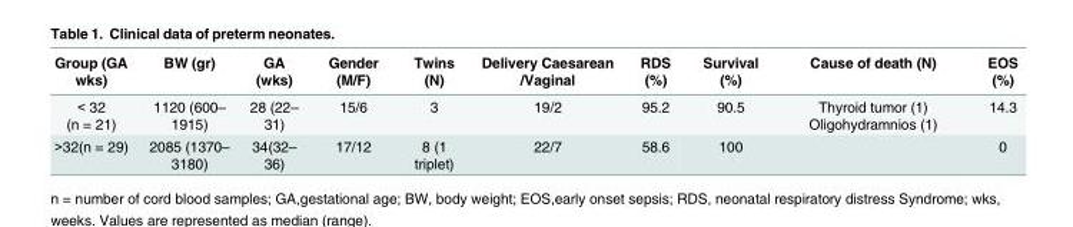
<table><thead><tr><td>Group (GA wks)</td><td>BW (gr)</td><td>GA (wks)</td><td>Gender (M/F)</td><td>Twins (N)</td><td>Delivery Caesarean /Vaginal</td><td>RDS (%)</td><td>Survival (%)</td><td>Cause of death (N)</td><td>EOS (%)</td></tr></thead><tbody><tr><td>&lt; 32 (n = 21)</td><td>1120 (600– 1915)</td><td>28 (22– 31)</td><td>15/6</td><td>3</td><td>19/2</td><td>95.2</td><td>90.5</td><td>Thyroid tumor (1) Oligohydramnios (1)</td><td>14.3</td></tr><tr><td>&gt;32(n = 29)</td><td>2085 (1370– 3180)</td><td>34(32– 36)</td><td>17/12</td><td>8 (1 triplet)</td><td>22/7</td><td>58.6</td><td>100</td><td></td><td>0</td></tr></tbody></table>